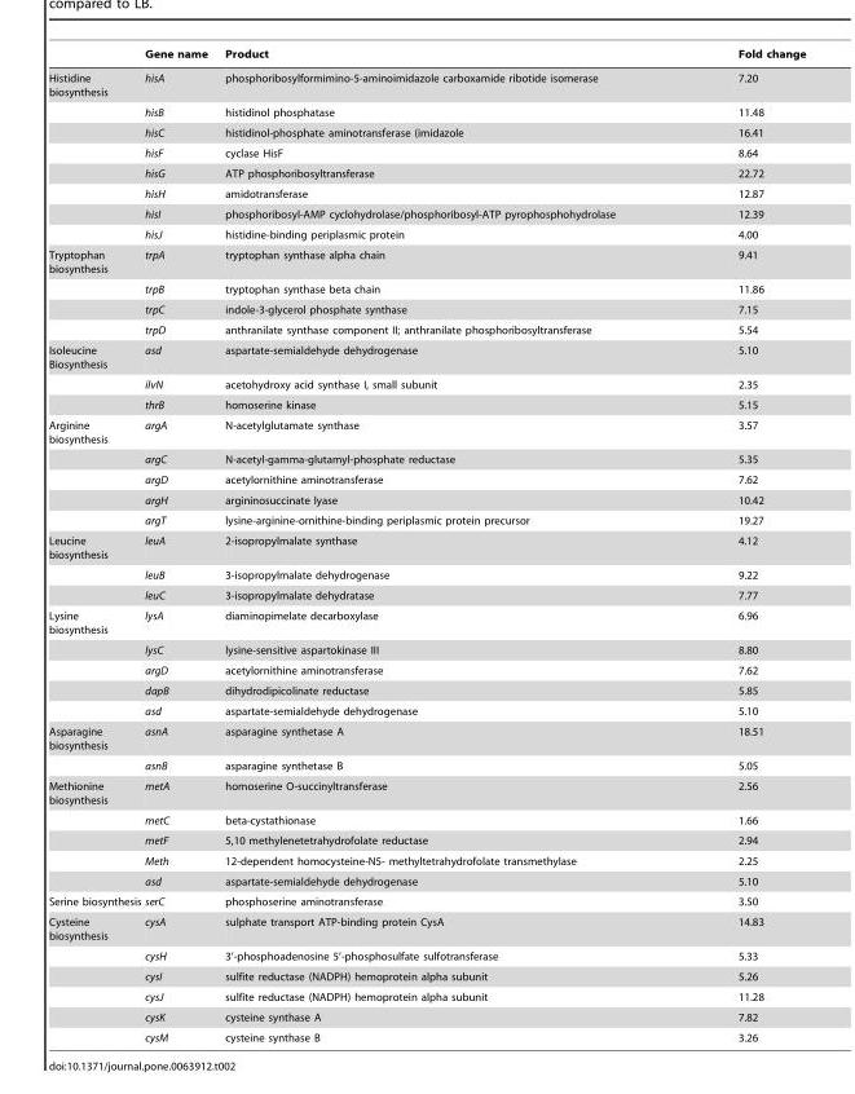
<table><thead><tr><td></td><td>Gene name</td><td>Product</td><td>Fold change</td></tr></thead><tbody><tr><td rowspan="8">Histidine biosynthesis</td><td>hisA</td><td>phosphoribosylformimino-5-aminoimidazole carboxamide ribotide isomerase</td><td>7.20</td></tr><tr><td>hisB</td><td>histidinol phosphatase</td><td>11.48</td></tr><tr><td>hisC</td><td>histidinol-phosphate aminotransferase (imidazole</td><td>16.41</td></tr><tr><td>hisF</td><td>cyclase HisF</td><td>8.64</td></tr><tr><td>hisG</td><td>ATP phosphoribosyltransferase</td><td>22.72</td></tr><tr><td>hisH</td><td>amidotransferase</td><td>12.87</td></tr><tr><td>hisI</td><td>phosphoribosyl-AMP cyclohydrolase/phosphoribosyl-ATP pyrophosphohydrolase</td><td>12.39</td></tr><tr><td>hisJ</td><td>histidine-binding periplasmic protein</td><td>4.00</td></tr><tr><td rowspan="4">Tryptophan biosynthesis</td><td>trpA</td><td>tryptophan synthase alpha chain</td><td>9.41</td></tr><tr><td>trpB</td><td>tryptophan synthase beta chain</td><td>11.86</td></tr><tr><td>trpC</td><td>indole-3-glycerol phosphate synthase</td><td>7.15</td></tr><tr><td>trpD</td><td>anthranilate synthase component II; anthranilate phosphoribosyltransferase</td><td>5.54</td></tr><tr><td rowspan="3">Isoleucine Biosynthesis</td><td>asd</td><td>aspartate-semialdehyde dehydrogenase</td><td>5.10</td></tr><tr><td>ilvN</td><td>acetohydroxy acid synthase I, small subunit</td><td>2.35</td></tr><tr><td>thrB</td><td>homoserine kinase</td><td>5.15</td></tr><tr><td rowspan="5">Arginine biosynthesis</td><td>argA</td><td>N-acetylglutamate synthase</td><td>3.57</td></tr><tr><td>argC</td><td>N-acetyl-gamma-glutamyl-phosphate reductase</td><td>5.35</td></tr><tr><td>argD</td><td>acetylornithine aminotransferase</td><td>7.62</td></tr><tr><td>argH</td><td>argininosuccinate lyase</td><td>10.42</td></tr><tr><td>argT</td><td>lysine-arginine-ornithine-binding periplasmic protein precursor</td><td>19.27</td></tr><tr><td rowspan="3">Leucine biosynthesis</td><td>leuA</td><td>2-isopropylmalate synthase</td><td>4.12</td></tr><tr><td>leuB</td><td>3-isopropylmalate dehydrogenase</td><td>9.22</td></tr><tr><td>leuC</td><td>3-isopropylmalate dehydratase</td><td>7.77</td></tr><tr><td rowspan="5">Lysine biosynthesis</td><td>lysA</td><td>diaminopimelate decarboxylase</td><td>6.96</td></tr><tr><td>lysC</td><td>lysine-sensitive aspartokinase III</td><td>8.80</td></tr><tr><td>argD</td><td>acetylornithine aminotransferase</td><td>7.62</td></tr><tr><td>dapB</td><td>dihydrodipicolinate reductase</td><td>5.85</td></tr><tr><td>asd</td><td>aspartate-semialdehyde dehydrogenase</td><td>5.10</td></tr><tr><td rowspan="2">Asparagine biosynthesis</td><td>asnA</td><td>asparagine synthetase A</td><td>18.51</td></tr><tr><td>asnB</td><td>asparagine synthetase B</td><td>5.05</td></tr><tr><td rowspan="5">Methionine biosynthesis</td><td>metA</td><td>homoserine O-succinyltransferase</td><td>2.56</td></tr><tr><td>metC</td><td>beta-cystathionase</td><td>1.66</td></tr><tr><td>metF</td><td>5,10 methylenetetrahydrofolate reductase</td><td>2.94</td></tr><tr><td>Meth</td><td>12-dependent homocysteine-N5- methyltetrahydrofolate transmethylase</td><td>2.25</td></tr><tr><td>asd</td><td>aspartate-semialdehyde dehydrogenase</td><td>5.10</td></tr><tr><td>Serine biosynthesis</td><td>serC</td><td>phosphoserine aminotransferase</td><td>3.50</td></tr><tr><td rowspan="6">Cysteine biosynthesis</td><td>cysA</td><td>sulphate transport ATP-binding protein CysA</td><td>14.83</td></tr><tr><td>cysH</td><td>3’-phosphoadenosine 5’-phosphosulfate sulfotransferase</td><td>5.33</td></tr><tr><td>cysI</td><td>sulfite reductase (NADPH) hemoprotein alpha subunit</td><td>5.26</td></tr><tr><td>cysJ</td><td>sulfite reductase (NADPH) hemoprotein alpha subunit</td><td>11.28</td></tr><tr><td>cysK</td><td>cysteine synthase A</td><td>7.82</td></tr><tr><td>cysM</td><td>cysteine synthase B</td><td>3.26</td></tr></tbody></table>